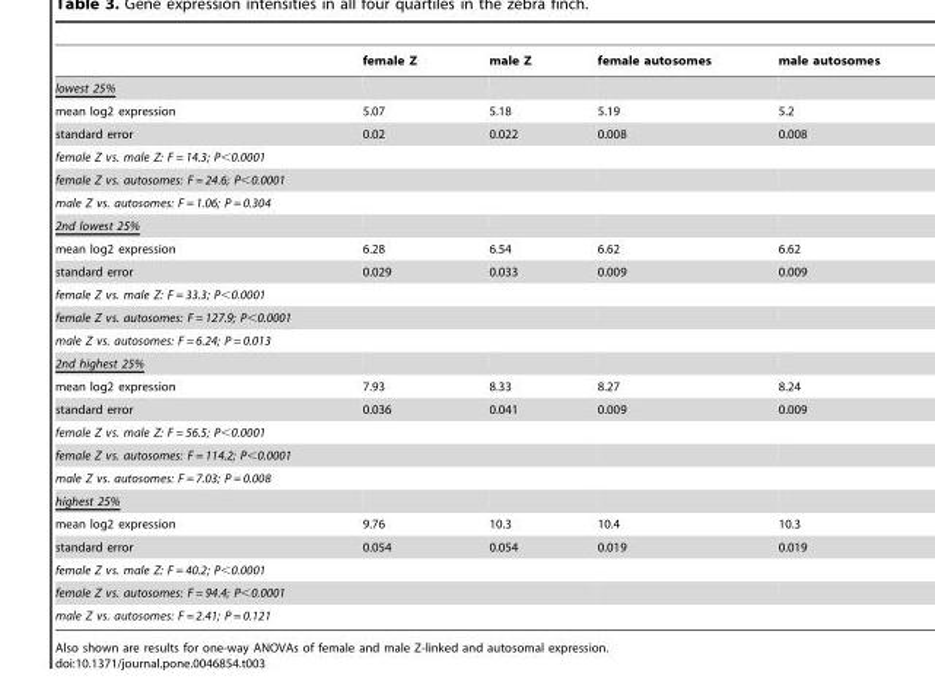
<table><thead><tr><td></td><td>female Z</td><td>male Z</td><td>female autosomes</td><td>male autosomes</td></tr></thead><tbody><tr><td colspan="5">lowest 25%</td></tr><tr><td>mean log2 expression</td><td>5.07</td><td>5.18</td><td>5.19</td><td>5.2</td></tr><tr><td>standard error</td><td>0.02</td><td>0.022</td><td>0.008</td><td>0.008</td></tr><tr><td colspan="5">female Z vs. male Z: F = 14.3; P&lt;0.0001</td></tr><tr><td colspan="5">female Z vs. autosomes: F = 24.6; P&lt;0.0001</td></tr><tr><td colspan="5">male Z vs. autosomes: F = 1.06; P = 0.304</td></tr><tr><td colspan="5">2nd lowest 25%</td></tr><tr><td>mean log2 expression</td><td>6.28</td><td>6.54</td><td>6.62</td><td>6.62</td></tr><tr><td>standard error</td><td>0.029</td><td>0.033</td><td>0.009</td><td>0.009</td></tr><tr><td colspan="5">female Z vs. male Z: F = 33.3; P&lt;0.0001</td></tr><tr><td colspan="5">female Z vs. autosomes: F = 127.9; P&lt;0.0001</td></tr><tr><td colspan="5">male Z vs. autosomes: F = 6.24; P = 0.013</td></tr><tr><td colspan="5">2nd highest 25%</td></tr><tr><td>mean log2 expression</td><td>7.93</td><td>8.33</td><td>8.27</td><td>8.24</td></tr><tr><td>standard error</td><td>0.036</td><td>0.041</td><td>0.009</td><td>0.009</td></tr><tr><td colspan="5">female Z vs. male Z: F = 56.5; P&lt;0.0001</td></tr><tr><td colspan="5">female Z vs. autosomes: F = 114.2; P&lt;0.0001</td></tr><tr><td colspan="5">male Z vs. autosomes: F = 7.03; P = 0.008</td></tr><tr><td colspan="5">highest 25%</td></tr><tr><td>mean log2 expression</td><td>9.76</td><td>10.3</td><td>10.4</td><td>10.3</td></tr><tr><td>standard error</td><td>0.054</td><td>0.054</td><td>0.019</td><td>0.019</td></tr><tr><td colspan="5">female Z vs. male Z: F = 40.2; P&lt;0.0001</td></tr><tr><td colspan="5">female Z vs. autosomes: F = 94.4; P&lt;0.0001</td></tr><tr><td colspan="3">male Z vs. autosomes: F = 2.41; P = 0.121</td><td></td><td></td></tr></tbody></table>